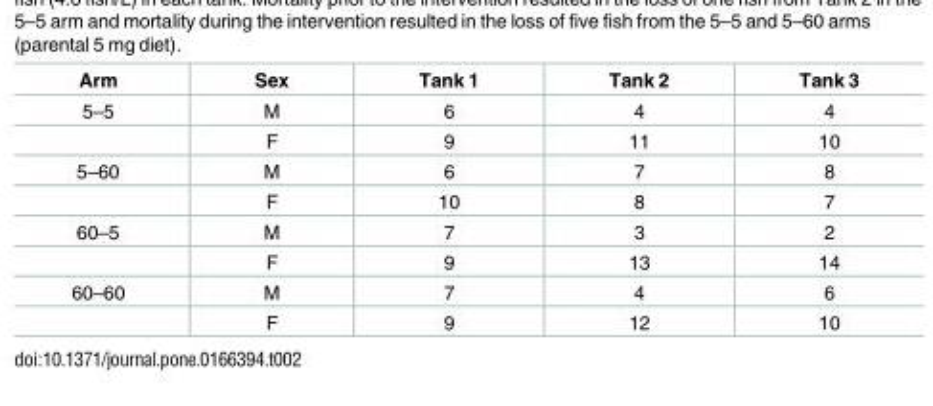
<table><thead><tr><td>Arm</td><td>Sex</td><td>Tank 1</td><td>Tank 2</td><td>Tank 3</td></tr></thead><tbody><tr><td rowspan="2">5–5</td><td>M</td><td>6</td><td>4</td><td>4</td></tr><tr><td>F</td><td>9</td><td>11</td><td>10</td></tr><tr><td rowspan="2">5–60</td><td>M</td><td>6</td><td>7</td><td>8</td></tr><tr><td>F</td><td>10</td><td>8</td><td>7</td></tr><tr><td rowspan="2">60–5</td><td>M</td><td>7</td><td>3</td><td>2</td></tr><tr><td>F</td><td>9</td><td>13</td><td>14</td></tr><tr><td rowspan="2">60–60</td><td>M</td><td>7</td><td>4</td><td>6</td></tr><tr><td>F</td><td>9</td><td>12</td><td>10</td></tr></tbody></table>